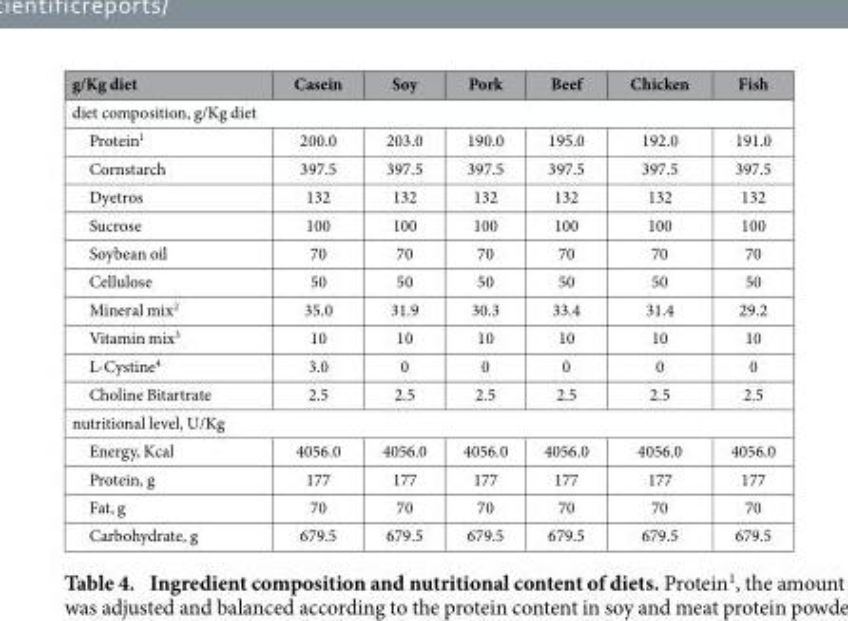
<table><thead><tr><td>g/Kg diet</td><td>Casein</td><td>Soy</td><td>Pork</td><td>Beef</td><td>Chicken</td><td>Fish</td></tr></thead><tbody><tr><td colspan="7">diet composition, g/Kg diet</td></tr><tr><td>Protein<sup>1</sup></td><td>200.0</td><td>203.0</td><td>190.0</td><td>195.0</td><td>192.0</td><td>191.0</td></tr><tr><td>Cornstarch</td><td>397.5</td><td>397.5</td><td>397.5</td><td>397.5</td><td>397.5</td><td>397.5</td></tr><tr><td>Dyetros</td><td>132</td><td>132</td><td>132</td><td>132</td><td>132</td><td>132</td></tr><tr><td>Sucrose</td><td>100</td><td>100</td><td>100</td><td>100</td><td>100</td><td>100</td></tr><tr><td>Soybean oil</td><td>70</td><td>70</td><td>70</td><td>70</td><td>70</td><td>70</td></tr><tr><td>Cellulose</td><td>50</td><td>50</td><td>50</td><td>50</td><td>50</td><td>50</td></tr><tr><td>Mineral mix<sup>2</sup></td><td>35.0</td><td>31.9</td><td>30.3</td><td>33.4</td><td>31.4</td><td>29.2</td></tr><tr><td>Vitamin mix<sup>3</sup></td><td>10</td><td>10</td><td>10</td><td>10</td><td>10</td><td>10</td></tr><tr><td>L-Cystine<sup>4</sup></td><td>3.0</td><td>0</td><td>0</td><td>0</td><td>0</td><td>0</td></tr><tr><td>Choline Bitartrate</td><td>2.5</td><td>2.5</td><td>2.5</td><td>2.5</td><td>2.5</td><td>2.5</td></tr><tr><td colspan="7">nutritional level, U/Kg</td></tr><tr><td>Energy, Kcal</td><td>4056.0</td><td>4056.0</td><td>4056.0</td><td>4056.0</td><td>4056.0</td><td>4056.0</td></tr><tr><td>Protein, g</td><td>177</td><td>177</td><td>177</td><td>177</td><td>177</td><td>177</td></tr><tr><td>Fat, g</td><td>70</td><td>70</td><td>70</td><td>70</td><td>70</td><td>70</td></tr><tr><td>Carbohydrate, g</td><td>679.5</td><td>679.5</td><td>679.5</td><td>679.5</td><td>679.5</td><td>679.5</td></tr></tbody></table>